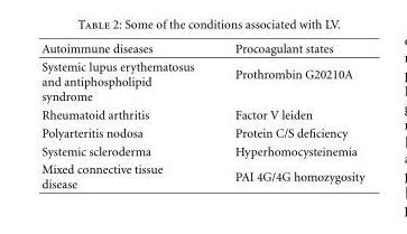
<table><thead><tr><td>Autoimmune diseases</td><td>Procoagulant states</td></tr></thead><tbody><tr><td>Systemic lupus erythematosus and antiphospholipid syndrome</td><td>Prothrombin G20210A</td></tr><tr><td>Rheumatoid arthritis</td><td>Factor V leiden</td></tr><tr><td>Polyarteritis nodosa</td><td>Protein C/S deficiency</td></tr><tr><td>Systemic scleroderma</td><td>Hyperhomocysteinemia</td></tr><tr><td>Mixed connective tissue disease</td><td>PAI 4G/4G homozygosity</td></tr></tbody></table>